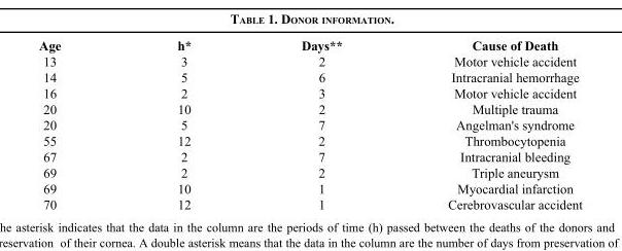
<table><thead><tr><td>Age</td><td>h*</td><td>Days**</td><td>Cause of Death</td></tr></thead><tbody><tr><td>13</td><td>3</td><td>2</td><td>Motor vehicle accident</td></tr><tr><td>14</td><td>5</td><td>6</td><td>Intracranial hemorrhage</td></tr><tr><td>16</td><td>2</td><td>3</td><td>Motor vehicle accident</td></tr><tr><td>20</td><td>10</td><td>2</td><td>Multiple trauma</td></tr><tr><td>20</td><td>5</td><td>7</td><td>Angelman&#x27;s syndrome</td></tr><tr><td>55</td><td>12</td><td>2</td><td>Thrombocytopenia</td></tr><tr><td>67</td><td>2</td><td>7</td><td>Intracranial bleeding</td></tr><tr><td>69</td><td>2</td><td>2</td><td>Triple aneurysm</td></tr><tr><td>69</td><td>10</td><td>1</td><td>Myocardial infarction</td></tr><tr><td>70</td><td>12</td><td>1</td><td>Cerebrovascular accident</td></tr></tbody></table>